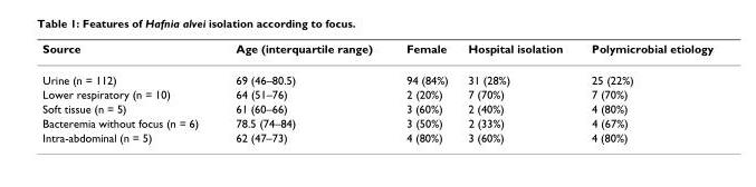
<table><thead><tr><td>Source</td><td>Age (interquartile range)</td><td>Female</td><td>Hospital isolation</td><td>Polymicrobial etiology</td></tr></thead><tbody><tr><td>Urine (n = 112)</td><td>69 (46–80.5)</td><td>94 (84%)</td><td>31 (28%)</td><td>25 (22%)</td></tr><tr><td>Lower respiratory (n = 10)</td><td>64 (51–76)</td><td>2 (20%)</td><td>7 (70%)</td><td>7 (70%)</td></tr><tr><td>Soft tissue (n = 5)</td><td>61 (60–66)</td><td>3 (60%)</td><td>2 (40%)</td><td>4 (80%)</td></tr><tr><td>Bacteremia without focus (n = 6)</td><td>78.5 (74–84)</td><td>3 (50%)</td><td>2 (33%)</td><td>4 (67%)</td></tr><tr><td>Intra-abdominal (n = 5)</td><td>62 (47–73)</td><td>4 (80%)</td><td>3 (60%)</td><td>4 (80%)</td></tr></tbody></table>